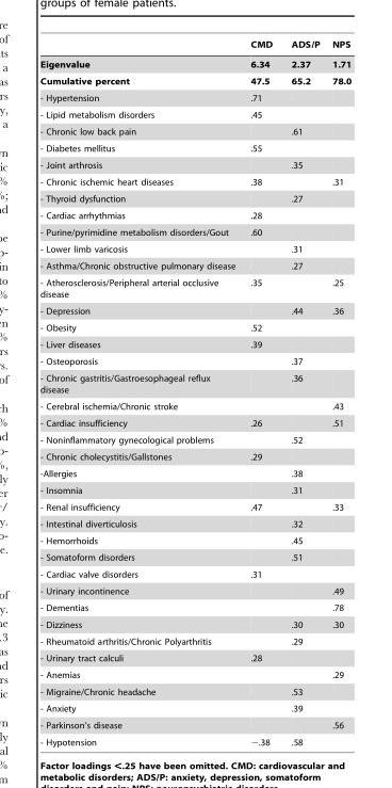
<table><thead><tr><td></td><td>CMD</td><td>ADS/P</td><td>NPS</td></tr></thead><tbody><tr><td>Eigenvalue</td><td>6.34</td><td>2.37</td><td>1.71</td></tr><tr><td>Cumulative percent</td><td>47.5</td><td>65.2</td><td>78.0</td></tr><tr><td>- Hypertension</td><td>.71</td><td></td><td></td></tr><tr><td>- Lipid metabolism disorders</td><td>.45</td><td></td><td></td></tr><tr><td>- Chronic low back pain</td><td></td><td>.61</td><td></td></tr><tr><td>- Diabetes mellitus</td><td>.55</td><td></td><td></td></tr><tr><td>- Joint arthrosis</td><td></td><td>.35</td><td></td></tr><tr><td>- Chronic ischemic heart diseases</td><td>.38</td><td></td><td>.31</td></tr><tr><td>- Thyroid dysfunction</td><td></td><td>.27</td><td></td></tr><tr><td>- Cardiac arrhythmias</td><td>.28</td><td></td><td></td></tr><tr><td>- Purine/pyrimidine metabolism disorders/Gout</td><td>.60</td><td></td><td></td></tr><tr><td>- Lower limb varicosis</td><td></td><td>.31</td><td></td></tr><tr><td>- Asthma/Chronic obstructive pulmonary disease</td><td></td><td>.27</td><td></td></tr><tr><td>- Atherosclerosis/Peripheral arterial occlusive disease</td><td>.35</td><td></td><td>.25</td></tr><tr><td>- Depression</td><td></td><td>.44</td><td>.36</td></tr><tr><td>- Obesity</td><td>.52</td><td></td><td></td></tr><tr><td>- Liver diseases</td><td>.39</td><td></td><td></td></tr><tr><td>- Osteoporosis</td><td></td><td>.37</td><td></td></tr><tr><td>- Chronic gastritis/Gastroesophageal reflux disease</td><td></td><td>.36</td><td></td></tr><tr><td>- Cerebral ischemia/Chronic stroke</td><td></td><td></td><td>.43</td></tr><tr><td>- Cardiac insufficiency</td><td>.26</td><td></td><td>.51</td></tr><tr><td>- Noninflammatory gynecological problems</td><td></td><td>.52</td><td></td></tr><tr><td>- Chronic cholecystitis/Gallstones</td><td>.29</td><td></td><td></td></tr><tr><td>-Allergies</td><td></td><td>.38</td><td></td></tr><tr><td>- Insomnia</td><td></td><td>.31</td><td></td></tr><tr><td>- Renal insufficiency</td><td>.47</td><td></td><td>.33</td></tr><tr><td>- Intestinal diverticulosis</td><td></td><td>.32</td><td></td></tr><tr><td>- Hemorrhoids</td><td></td><td>.45</td><td></td></tr><tr><td>- Somatoform disorders</td><td></td><td>.51</td><td></td></tr><tr><td>- Cardiac valve disorders</td><td>.31</td><td></td><td></td></tr><tr><td>- Urinary incontinence</td><td></td><td></td><td>.49</td></tr><tr><td>- Dementias</td><td></td><td></td><td>.78</td></tr><tr><td>- Dizziness</td><td></td><td>.30</td><td>.30</td></tr><tr><td>- Rheumatoid arthritis/Chronic Polyarthritis</td><td></td><td>.29</td><td></td></tr><tr><td>- Urinary tract calculi</td><td>.28</td><td></td><td></td></tr><tr><td>- Anemias</td><td></td><td></td><td>.29</td></tr><tr><td>- Migraine/Chronic headache</td><td></td><td>.53</td><td></td></tr><tr><td>- Anxiety</td><td></td><td>.39</td><td></td></tr><tr><td>- Parkinson’s disease</td><td></td><td></td><td>.56</td></tr><tr><td>- Hypotension</td><td>−.38</td><td>.58</td><td></td></tr></tbody></table>